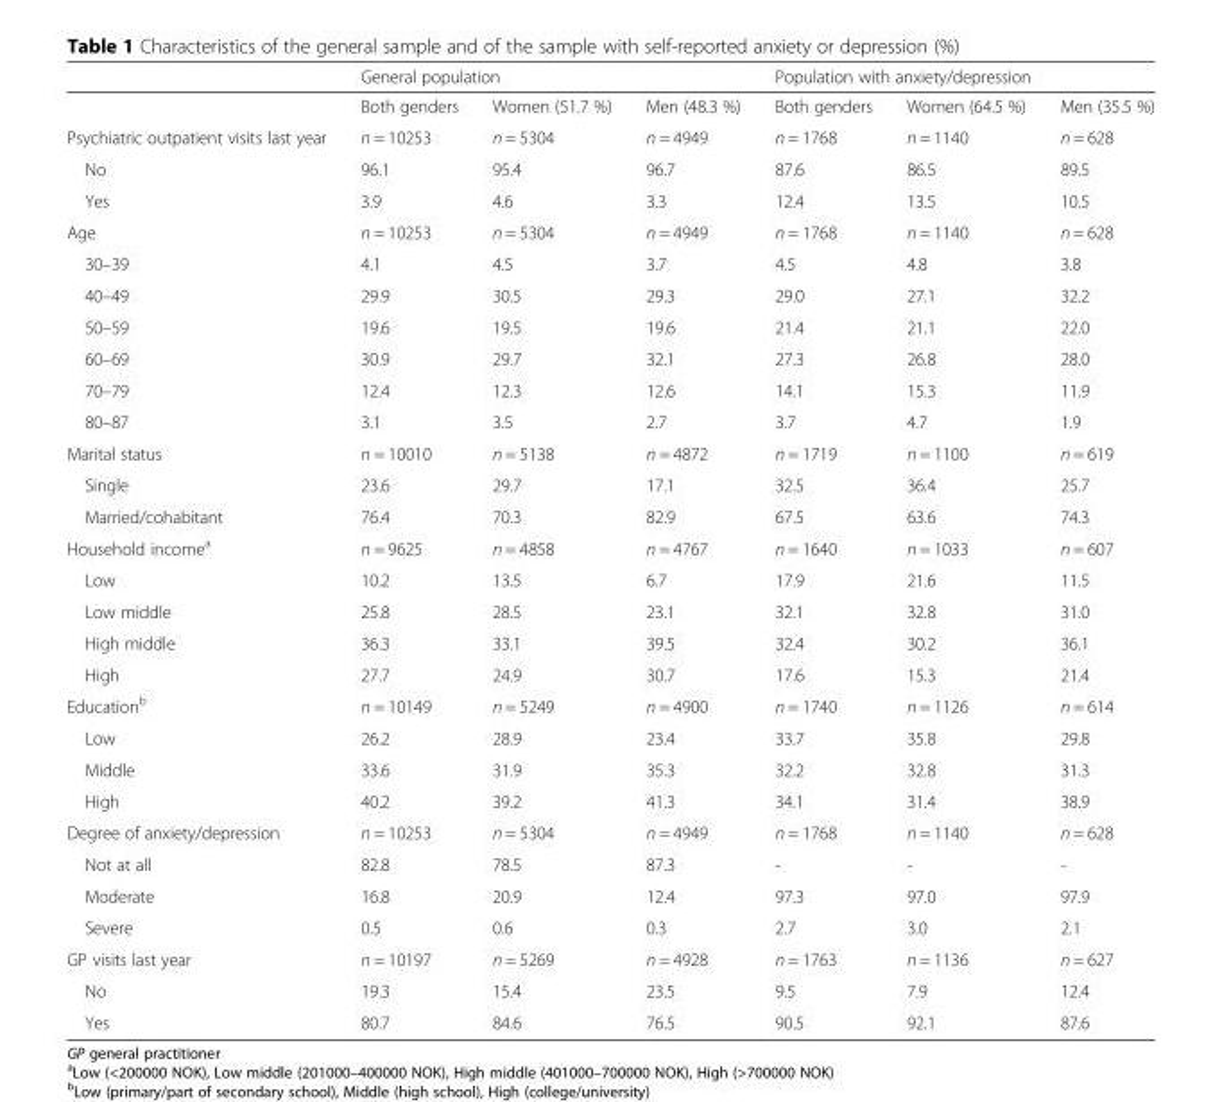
<table><thead><tr><td rowspan="2"></td><td colspan="3">General population</td><td colspan="3">Population with anxiety/depression</td></tr><tr><td>Both genders</td><td>Women (51.7 %)</td><td>Men (48.3 %)</td><td>Both genders</td><td>Women (64.5 %)</td><td>Men (35.5 %)</td></tr></thead><tbody><tr><td>Psychiatric outpatient visits last year</td><td>n = 10253</td><td>n = 5304</td><td>n = 4949</td><td>n = 1768</td><td>n = 1140</td><td>n = 628</td></tr><tr><td>No</td><td>96.1</td><td>95.4</td><td>96.7</td><td>87.6</td><td>86.5</td><td>89.5</td></tr><tr><td>Yes</td><td>3.9</td><td>4.6</td><td>3.3</td><td>12.4</td><td>13.5</td><td>10.5</td></tr><tr><td>Age</td><td>n = 10253</td><td>n = 5304</td><td>n = 4949</td><td>n = 1768</td><td>n = 1140</td><td>n = 628</td></tr><tr><td>30–39</td><td>4.1</td><td>4.5</td><td>3.7</td><td>4.5</td><td>4.8</td><td>3.8</td></tr><tr><td>40–49</td><td>29.9</td><td>30.5</td><td>29.3</td><td>29.0</td><td>27.1</td><td>32.2</td></tr><tr><td>50–59</td><td>19.6</td><td>19.5</td><td>19.6</td><td>21.4</td><td>21.1</td><td>22.0</td></tr><tr><td>60–69</td><td>30.9</td><td>29.7</td><td>32.1</td><td>27.3</td><td>26.8</td><td>28.0</td></tr><tr><td>70–79</td><td>12.4</td><td>12.3</td><td>12.6</td><td>14.1</td><td>15.3</td><td>11.9</td></tr><tr><td>80–87</td><td>3.1</td><td>3.5</td><td>2.7</td><td>3.7</td><td>4.7</td><td>1.9</td></tr><tr><td>Marital status</td><td>n = 10010</td><td>n = 5138</td><td>n = 4872</td><td>n = 1719</td><td>n = 1100</td><td>n = 619</td></tr><tr><td>Single</td><td>23.6</td><td>29.7</td><td>17.1</td><td>32.5</td><td>36.4</td><td>25.7</td></tr><tr><td>Married/cohabitant</td><td>76.4</td><td>70.3</td><td>82.9</td><td>67.5</td><td>63.6</td><td>74.3</td></tr><tr><td>Household income<sup>a</sup></td><td>n = 9625</td><td>n = 4858</td><td>n = 4767</td><td>n = 1640</td><td>n = 1033</td><td>n = 607</td></tr><tr><td>Low</td><td>10.2</td><td>13.5</td><td>6.7</td><td>17.9</td><td>21.6</td><td>11.5</td></tr><tr><td>Low middle</td><td>25.8</td><td>28.5</td><td>23.1</td><td>32.1</td><td>32.8</td><td>31.0</td></tr><tr><td>High middle</td><td>36.3</td><td>33.1</td><td>39.5</td><td>32.4</td><td>30.2</td><td>36.1</td></tr><tr><td>High</td><td>27.7</td><td>24.9</td><td>30.7</td><td>17.6</td><td>15.3</td><td>21.4</td></tr><tr><td>Education<sup>b</sup></td><td>n = 10149</td><td>n = 5249</td><td>n = 4900</td><td>n = 1740</td><td>n = 1126</td><td>n = 614</td></tr><tr><td>Low</td><td>26.2</td><td>28.9</td><td>23.4</td><td>33.7</td><td>35.8</td><td>29.8</td></tr><tr><td>Middle</td><td>33.6</td><td>31.9</td><td>35.3</td><td>32.2</td><td>32.8</td><td>31.3</td></tr><tr><td>High</td><td>40.2</td><td>39.2</td><td>41.3</td><td>34.1</td><td>31.4</td><td>38.9</td></tr><tr><td>Degree of anxiety/depression</td><td>n = 10253</td><td>n = 5304</td><td>n = 4949</td><td>n = 1768</td><td>n = 1140</td><td>n = 628</td></tr><tr><td>Not at all</td><td>82.8</td><td>78.5</td><td>87.3</td><td>-</td><td>-</td><td>-</td></tr><tr><td>Moderate</td><td>16.8</td><td>20.9</td><td>12.4</td><td>97.3</td><td>97.0</td><td>97.9</td></tr><tr><td>Severe</td><td>0.5</td><td>0.6</td><td>0.3</td><td>2.7</td><td>3.0</td><td>2.1</td></tr><tr><td>GP visits last year</td><td>n = 10197</td><td>n = 5269</td><td>n = 4928</td><td>n = 1763</td><td>n = 1136</td><td>n = 627</td></tr><tr><td>No</td><td>19.3</td><td>15.4</td><td>23.5</td><td>9.5</td><td>7.9</td><td>12.4</td></tr><tr><td>Yes</td><td>80.7</td><td>84.6</td><td>76.5</td><td>90.5</td><td>92.1</td><td>87.6</td></tr></tbody></table>